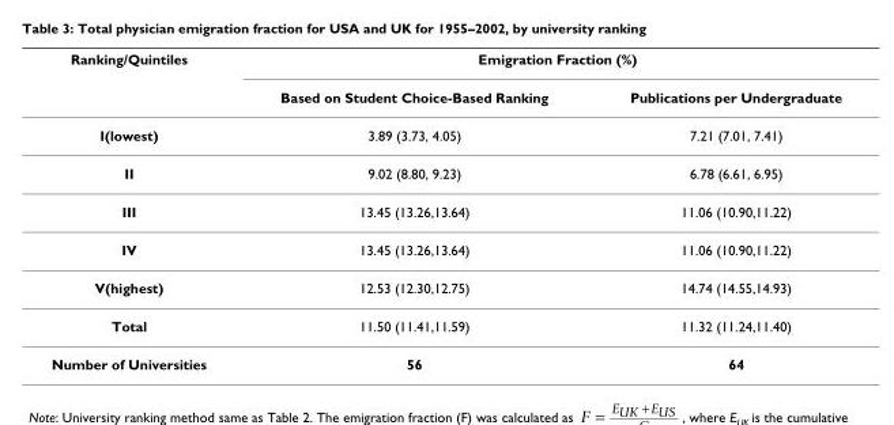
<table><thead><tr><td rowspan="2">Ranking/Quintiles</td><td colspan="2">Emigration Fraction (%)</td></tr><tr><td>Based on Student Choice-Based Ranking</td><td>Publications per Undergraduate</td></tr></thead><tbody><tr><td>I(lowest)</td><td>3.89 (3.73, 4.05)</td><td>7.21 (7.01, 7.41)</td></tr><tr><td>II</td><td>9.02 (8.80, 9.23)</td><td>6.78 (6.61, 6.95)</td></tr><tr><td>III</td><td>13.45 (13.26,13.64)</td><td>11.06 (10.90,11.22)</td></tr><tr><td>IV</td><td>13.45 (13.26,13.64)</td><td>11.06 (10.90,11.22)</td></tr><tr><td>V(highest)</td><td>12.53 (12.30,12.75)</td><td>14.74 (14.55,14.93)</td></tr><tr><td>Total</td><td>11.50 (11.41,11.59)</td><td>11.32 (11.24,11.40)</td></tr><tr><td>Number of Universities</td><td>56</td><td>64</td></tr></tbody></table>